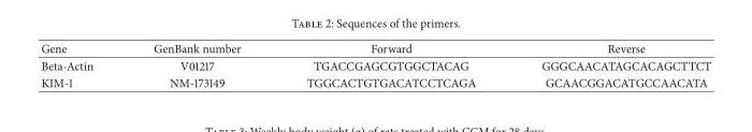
<table><thead><tr><td>Gene</td><td>GenBank number</td><td>Forward</td><td>Reverse</td></tr></thead><tbody><tr><td>Beta-Actin</td><td>V01217</td><td>TGACCGAGCGTGGCTACAG</td><td>GGGCAACATAGCACAGCTTCT</td></tr><tr><td>KIM-1</td><td>NM-173149</td><td>TGGCACTGTGACATCCTCAGA</td><td>GCAACGGACATGCCAACATA</td></tr></tbody></table>